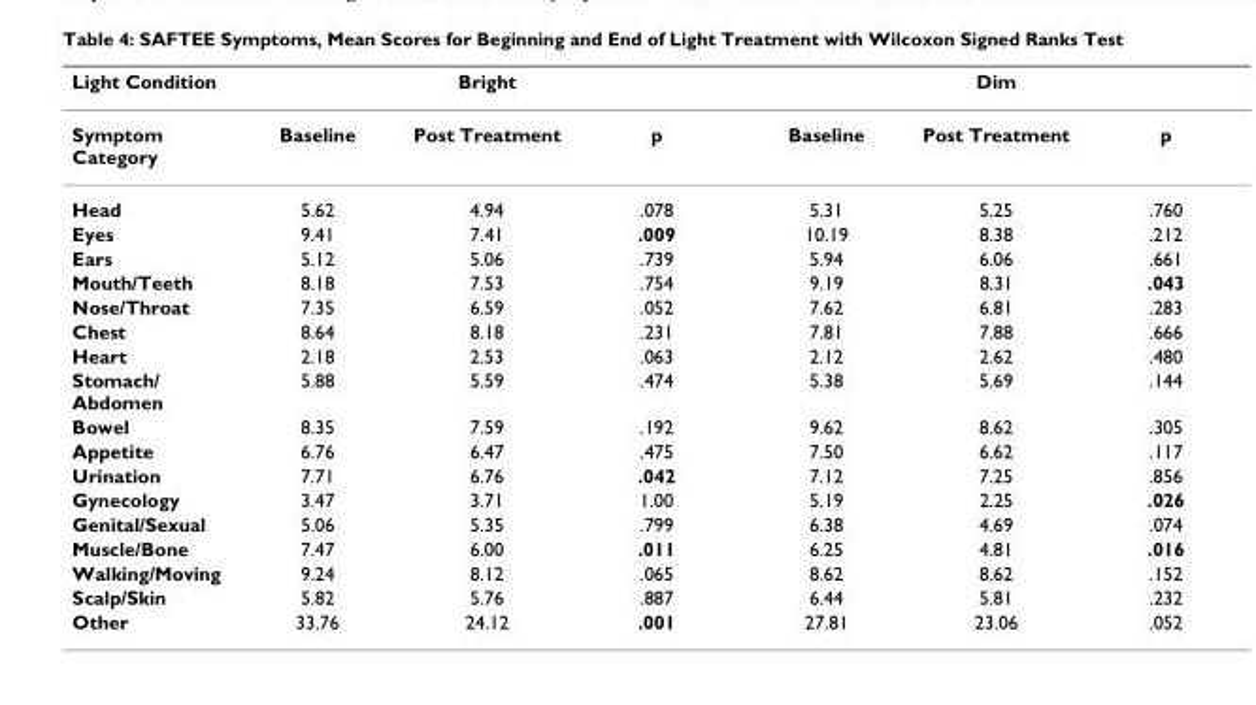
<table><thead><tr><td rowspan="2">Light Condition Symptom Category</td><td colspan="3">Bright</td><td colspan="3">Dim</td></tr><tr><td>Baseline</td><td>Post Treatment</td><td>p</td><td>Baseline</td><td>Post Treatment</td><td>p</td></tr></thead><tbody><tr><td>Head</td><td>5.62</td><td>4.94</td><td>.078</td><td>5.31</td><td>5.25</td><td>.760</td></tr><tr><td>Eyes</td><td>9.41</td><td>7.41</td><td>.009</td><td>10.19</td><td>8.38</td><td>.212</td></tr><tr><td>Ears</td><td>5.12</td><td>5.06</td><td>.739</td><td>5.94</td><td>6.06</td><td>.661</td></tr><tr><td>Mouth/Teeth</td><td>8.18</td><td>7.53</td><td>.754</td><td>9.19</td><td>8.31</td><td>.043</td></tr><tr><td>Nose/Throat</td><td>7.35</td><td>6.59</td><td>.052</td><td>7.62</td><td>6.81</td><td>.283</td></tr><tr><td>Chest</td><td>8.64</td><td>8.18</td><td>.231</td><td>7.81</td><td>7.88</td><td>.666</td></tr><tr><td>Heart</td><td>2.18</td><td>2.53</td><td>.063</td><td>2.12</td><td>2.62</td><td>.480</td></tr><tr><td>Stomach/ Abdomen</td><td>5.88</td><td>5.59</td><td>.474</td><td>5.38</td><td>5.69</td><td>.144</td></tr><tr><td>Bowel</td><td>8.35</td><td>7.59</td><td>.192</td><td>9.62</td><td>8.62</td><td>.305</td></tr><tr><td>Appetite</td><td>6.76</td><td>6.47</td><td>.475</td><td>7.50</td><td>6.62</td><td>.117</td></tr><tr><td>Urination</td><td>7.71</td><td>6.76</td><td>.042</td><td>7.12</td><td>7.25</td><td>.856</td></tr><tr><td>Gynecology</td><td>3.47</td><td>3.71</td><td>1.00</td><td>5.19</td><td>2.25</td><td>.026</td></tr><tr><td>Genital/Sexual</td><td>5.06</td><td>5.35</td><td>.799</td><td>6.38</td><td>4.69</td><td>.074</td></tr><tr><td>Muscle/Bone</td><td>7.47</td><td>6.00</td><td>.011</td><td>6.25</td><td>4.81</td><td>.016</td></tr><tr><td>Walking/Moving</td><td>9.24</td><td>8.12</td><td>.065</td><td>8.62</td><td>8.62</td><td>.152</td></tr><tr><td>Scalp/Skin</td><td>5.82</td><td>5.76</td><td>.887</td><td>6.44</td><td>5.81</td><td>.232</td></tr><tr><td>Other</td><td>33.76</td><td>24.12</td><td>.001</td><td>27.81</td><td>23.06</td><td>.052</td></tr></tbody></table>